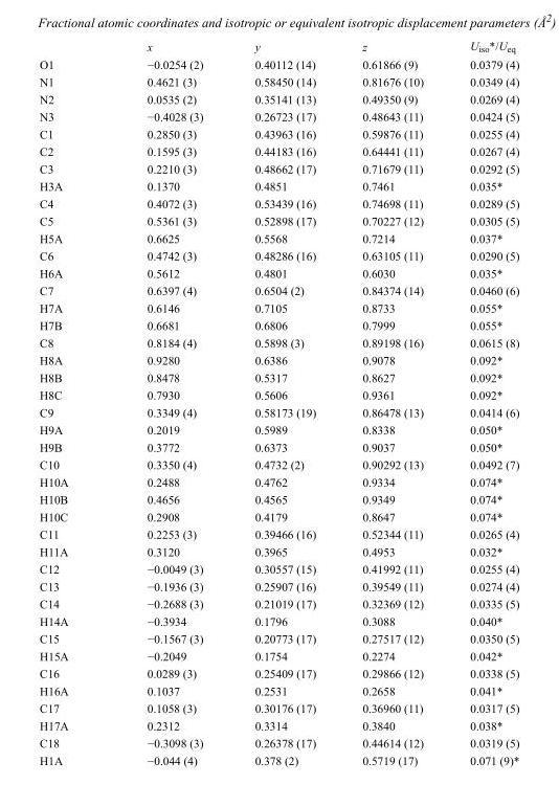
<table><thead><tr><td></td><td>x</td><td>y</td><td>z</td><td>U<sub>iso</sub>*/U<sub>eq</sub></td></tr></thead><tbody><tr><td>O1</td><td>−0.0254 (2)</td><td>0.40112 (14)</td><td>0.61866 (9)</td><td>0.0379 (4)</td></tr><tr><td>N1</td><td>0.4621 (3)</td><td>0.58450 (14)</td><td>0.81676 (10)</td><td>0.0349 (4)</td></tr><tr><td>N2</td><td>0.0535 (2)</td><td>0.35141 (13)</td><td>0.49350 (9)</td><td>0.0269 (4)</td></tr><tr><td>N3</td><td>−0.4028 (3)</td><td>0.26723 (17)</td><td>0.48643 (11)</td><td>0.0424 (5)</td></tr><tr><td>C1</td><td>0.2850 (3)</td><td>0.43963 (16)</td><td>0.59876 (11)</td><td>0.0255 (4)</td></tr><tr><td>C2</td><td>0.1595 (3)</td><td>0.44183 (16)</td><td>0.64441 (11)</td><td>0.0267 (4)</td></tr><tr><td>C3</td><td>0.2210 (3)</td><td>0.48662 (17)</td><td>0.71679 (11)</td><td>0.0292 (5)</td></tr><tr><td>H3A</td><td>0.1370</td><td>0.4851</td><td>0.7461</td><td>0.035*</td></tr><tr><td>C4</td><td>0.4072 (3)</td><td>0.53439 (16)</td><td>0.74698 (11)</td><td>0.0289 (5)</td></tr><tr><td>C5</td><td>0.5361 (3)</td><td>0.52898 (17)</td><td>0.70227 (12)</td><td>0.0305 (5)</td></tr><tr><td>H5A</td><td>0.6625</td><td>0.5568</td><td>0.7214</td><td>0.037*</td></tr><tr><td>C6</td><td>0.4742 (3)</td><td>0.48286 (16)</td><td>0.63105 (11)</td><td>0.0290 (5)</td></tr><tr><td>H6A</td><td>0.5612</td><td>0.4801</td><td>0.6030</td><td>0.035*</td></tr><tr><td>C7</td><td>0.6397 (4)</td><td>0.6504 (2)</td><td>0.84374 (14)</td><td>0.0460 (6)</td></tr><tr><td>H7A</td><td>0.6146</td><td>0.7105</td><td>0.8733</td><td>0.055*</td></tr><tr><td>H7B</td><td>0.6681</td><td>0.6806</td><td>0.7999</td><td>0.055*</td></tr><tr><td>C8</td><td>0.8184 (4)</td><td>0.5898 (3)</td><td>0.89198 (16)</td><td>0.0615 (8)</td></tr><tr><td>H8A</td><td>0.9280</td><td>0.6386</td><td>0.9078</td><td>0.092*</td></tr><tr><td>H8B</td><td>0.8478</td><td>0.5317</td><td>0.8627</td><td>0.092*</td></tr><tr><td>H8C</td><td>0.7930</td><td>0.5606</td><td>0.9361</td><td>0.092*</td></tr><tr><td>C9</td><td>0.3349 (4)</td><td>0.58173 (19)</td><td>0.86478 (13)</td><td>0.0414 (6)</td></tr><tr><td>H9A</td><td>0.2019</td><td>0.5989</td><td>0.8338</td><td>0.050*</td></tr><tr><td>H9B</td><td>0.3772</td><td>0.6373</td><td>0.9037</td><td>0.050*</td></tr><tr><td>C10</td><td>0.3350 (4)</td><td>0.4732 (2)</td><td>0.90292 (13)</td><td>0.0492 (7)</td></tr><tr><td>H10A</td><td>0.2488</td><td>0.4762</td><td>0.9334</td><td>0.074*</td></tr><tr><td>H10B</td><td>0.4656</td><td>0.4565</td><td>0.9349</td><td>0.074*</td></tr><tr><td>H10C</td><td>0.2908</td><td>0.4179</td><td>0.8647</td><td>0.074*</td></tr><tr><td>C11</td><td>0.2253 (3)</td><td>0.39466 (16)</td><td>0.52344 (11)</td><td>0.0265 (4)</td></tr><tr><td>H11A</td><td>0.3120</td><td>0.3965</td><td>0.4953</td><td>0.032*</td></tr><tr><td>C12</td><td>−0.0049 (3)</td><td>0.30557 (15)</td><td>0.41992 (11)</td><td>0.0255 (4)</td></tr><tr><td>C13</td><td>−0.1936 (3)</td><td>0.25907 (16)</td><td>0.39549 (11)</td><td>0.0274 (4)</td></tr><tr><td>C14</td><td>−0.2688 (3)</td><td>0.21019 (17)</td><td>0.32369 (12)</td><td>0.0335 (5)</td></tr><tr><td>H14A</td><td>−0.3934</td><td>0.1796</td><td>0.3088</td><td>0.040*</td></tr><tr><td>C15</td><td>−0.1567 (3)</td><td>0.20773 (17)</td><td>0.27517 (12)</td><td>0.0350 (5)</td></tr><tr><td>H15A</td><td>−0.2049</td><td>0.1754</td><td>0.2274</td><td>0.042*</td></tr><tr><td>C16</td><td>0.0289 (3)</td><td>0.25409 (17)</td><td>0.29866 (12)</td><td>0.0338 (5)</td></tr><tr><td>H16A</td><td>0.1037</td><td>0.2531</td><td>0.2658</td><td>0.041*</td></tr><tr><td>C17</td><td>0.1058 (3)</td><td>0.30176 (17)</td><td>0.36960 (11)</td><td>0.0317 (5)</td></tr><tr><td>H17A</td><td>0.2312</td><td>0.3314</td><td>0.3840</td><td>0.038*</td></tr><tr><td>C18</td><td>−0.3098 (3)</td><td>0.26378 (17)</td><td>0.44614 (12)</td><td>0.0319 (5)</td></tr><tr><td>H1A</td><td>−0.044 (4)</td><td>0.378 (2)</td><td>0.5719 (17)</td><td>0.071 (9)*</td></tr></tbody></table>